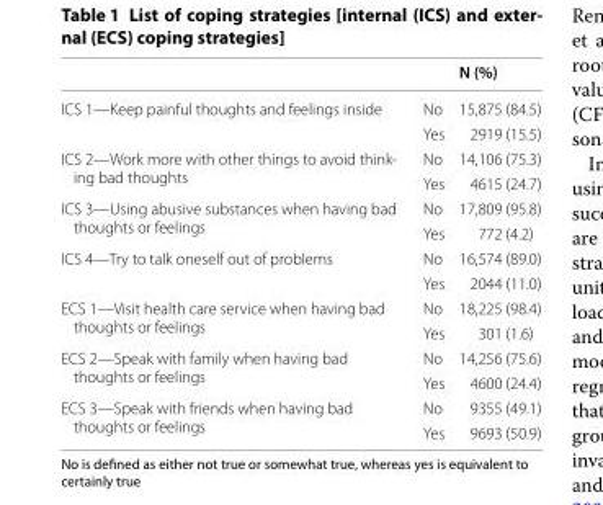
<table><thead><tr><td></td><td></td><td>N (%)</td></tr></thead><tbody><tr><td rowspan="2">ICS 1—Keep painful thoughts and feelings inside</td><td>No</td><td>15,875 (84.5)</td></tr><tr><td>Yes</td><td>2919 (15.5)</td></tr><tr><td rowspan="2">ICS 2—Work more with other things to avoid think‑ ing bad thoughts</td><td>No</td><td>14,106 (75.3)</td></tr><tr><td>Yes</td><td>4615 (24.7)</td></tr><tr><td rowspan="2">ICS 3—Using abusive substances when having bad thoughts or feelings</td><td>No</td><td>17,809 (95.8)</td></tr><tr><td>Yes</td><td>772 (4.2)</td></tr><tr><td rowspan="2">ICS 4—Try to talk oneself out of problems</td><td>No</td><td>16,574 (89.0)</td></tr><tr><td>Yes</td><td>2044 (11.0)</td></tr><tr><td rowspan="2">ECS 1—Visit health care service when having bad thoughts or feelings</td><td>No</td><td>18,225 (98.4)</td></tr><tr><td>Yes</td><td>301 (1.6)</td></tr><tr><td rowspan="2">ECS 2—Speak with family when having bad thoughts or feelings</td><td>No</td><td>14,256 (75.6)</td></tr><tr><td>Yes</td><td>4600 (24.4)</td></tr><tr><td rowspan="2">ECS 3—Speak with friends when having bad thoughts or feelings</td><td>No</td><td>9355 (49.1)</td></tr><tr><td>Yes</td><td>9693 (50.9)</td></tr></tbody></table>